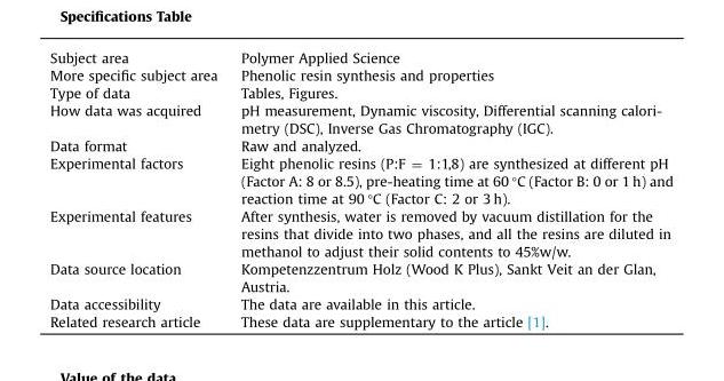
<table><tbody><tr><td>Subject area</td><td>Polymer Applied Science</td></tr><tr><td>More specific subject area</td><td>Phenolic resin synthesis and properties</td></tr><tr><td>Type of data</td><td>Tables, Figures.</td></tr><tr><td>How data was acquired</td><td>pH measurement, Dynamic viscosity, Differential scanning calori- metry (DSC), Inverse Gas Chromatography (IGC).</td></tr><tr><td>Data format</td><td>Raw and analyzed.</td></tr><tr><td>Experimental factors</td><td>Eight phenolic resins (P:F = 1:1,8) are synthesized at different pH (Factor A: 8 or 8.5), pre-heating time at 60 °C (Factor B: 0 or 1 h) and reaction time at 90 °C (Factor C: 2 or 3 h).</td></tr><tr><td>Experimental features</td><td>After synthesis, water is removed by vacuum distillation for the resins that divide into two phases, and all the resins are diluted in methanol to adjust their solid contents to 45%w/w.</td></tr><tr><td>Data source location</td><td>Kompetenzzentrum Holz (Wood K Plus), Sankt Veit an der Glan, Austria.</td></tr><tr><td>Data accessibility</td><td>The data are available in this article.</td></tr><tr><td>Related research article</td><td>These data are supplementary to the article [1].</td></tr></tbody></table>